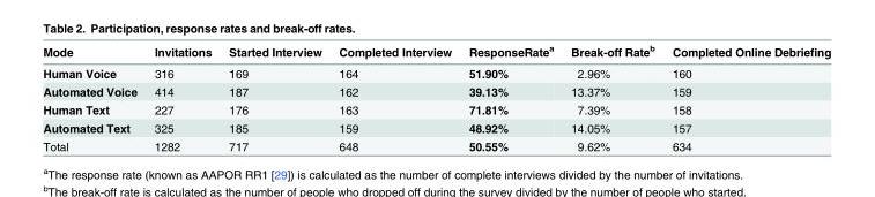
<table><thead><tr><td>Mode</td><td>Invitations</td><td>Started Interview</td><td>Completed Interview</td><td>ResponseRate<sup>a</sup></td><td>Break-off Rate<sup>b</sup></td><td>Completed Online Debriefing</td></tr></thead><tbody><tr><td>Human Voice</td><td>316</td><td>169</td><td>164</td><td>51.90%</td><td>2.96%</td><td>160</td></tr><tr><td>Automated Voice</td><td>414</td><td>187</td><td>162</td><td>39.13%</td><td>13.37%</td><td>159</td></tr><tr><td>Human Text</td><td>227</td><td>176</td><td>163</td><td>71.81%</td><td>7.39%</td><td>158</td></tr><tr><td>Automated Text</td><td>325</td><td>185</td><td>159</td><td>48.92%</td><td>14.05%</td><td>157</td></tr><tr><td>Total</td><td>1282</td><td>717</td><td>648</td><td>50.55%</td><td>9.62%</td><td>634</td></tr></tbody></table>